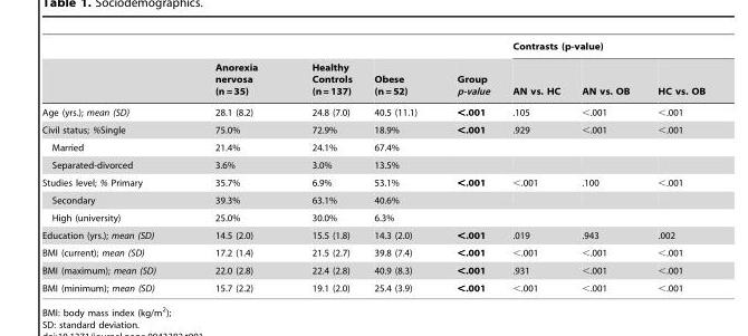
<table><thead><tr><td rowspan="2"></td><td rowspan="2">Anorexia nervosa (n = 35)</td><td rowspan="2">Healthy Controls (n = 137)</td><td rowspan="2">Obese (n = 52)</td><td rowspan="2">Group p-value</td><td colspan="3">Contrasts (p-value)</td></tr><tr><td>AN vs. HC</td><td>AN vs. OB</td><td>HC vs. OB</td></tr></thead><tbody><tr><td>Age (yrs.); mean (SD)</td><td>28.1 (8.2)</td><td>24.8 (7.0)</td><td>40.5 (11.1)</td><td>&lt;.001</td><td>.105</td><td>&lt;.001</td><td>&lt;.001</td></tr><tr><td>Civil status; %Single</td><td>75.0%</td><td>72.9%</td><td>18.9%</td><td>&lt;.001</td><td>.929</td><td>&lt;.001</td><td>&lt;.001</td></tr><tr><td>Married</td><td>21.4%</td><td>24.1%</td><td>67.4%</td><td></td><td></td><td></td><td></td></tr><tr><td>Separated-divorced</td><td>3.6%</td><td>3.0%</td><td>13.5%</td><td></td><td></td><td></td><td></td></tr><tr><td>Studies level; % Primary</td><td>35.7%</td><td>6.9%</td><td>53.1%</td><td>&lt;.001</td><td>&lt;.001</td><td>.100</td><td>&lt;.001</td></tr><tr><td>Secondary</td><td>39.3%</td><td>63.1%</td><td>40.6%</td><td></td><td></td><td></td><td></td></tr><tr><td>High (university)</td><td>25.0%</td><td>30.0%</td><td>6.3%</td><td></td><td></td><td></td><td></td></tr><tr><td>Education (yrs.); mean (SD)</td><td>14.5 (2.0)</td><td>15.5 (1.8)</td><td>14.3 (2.0)</td><td>&lt;.001</td><td>.019</td><td>.943</td><td>.002</td></tr><tr><td>BMI (current); mean (SD)</td><td>17.2 (1.4)</td><td>21.5 (2.7)</td><td>39.8 (7.4)</td><td>&lt;.001</td><td>&lt;.001</td><td>&lt;.001</td><td>&lt;.001</td></tr><tr><td>BMI (maximum); mean (SD)</td><td>22.0 (2.8)</td><td>22.4 (2.8)</td><td>40.9 (8.3)</td><td>&lt;.001</td><td>.931</td><td>&lt;.001</td><td>&lt;.001</td></tr><tr><td>BMI (minimum); mean (SD)</td><td>15.7 (2.2)</td><td>19.1 (2.0)</td><td>25.4 (3.9)</td><td>&lt;.001</td><td>&lt;.001</td><td>&lt;.001</td><td>&lt;.001</td></tr></tbody></table>